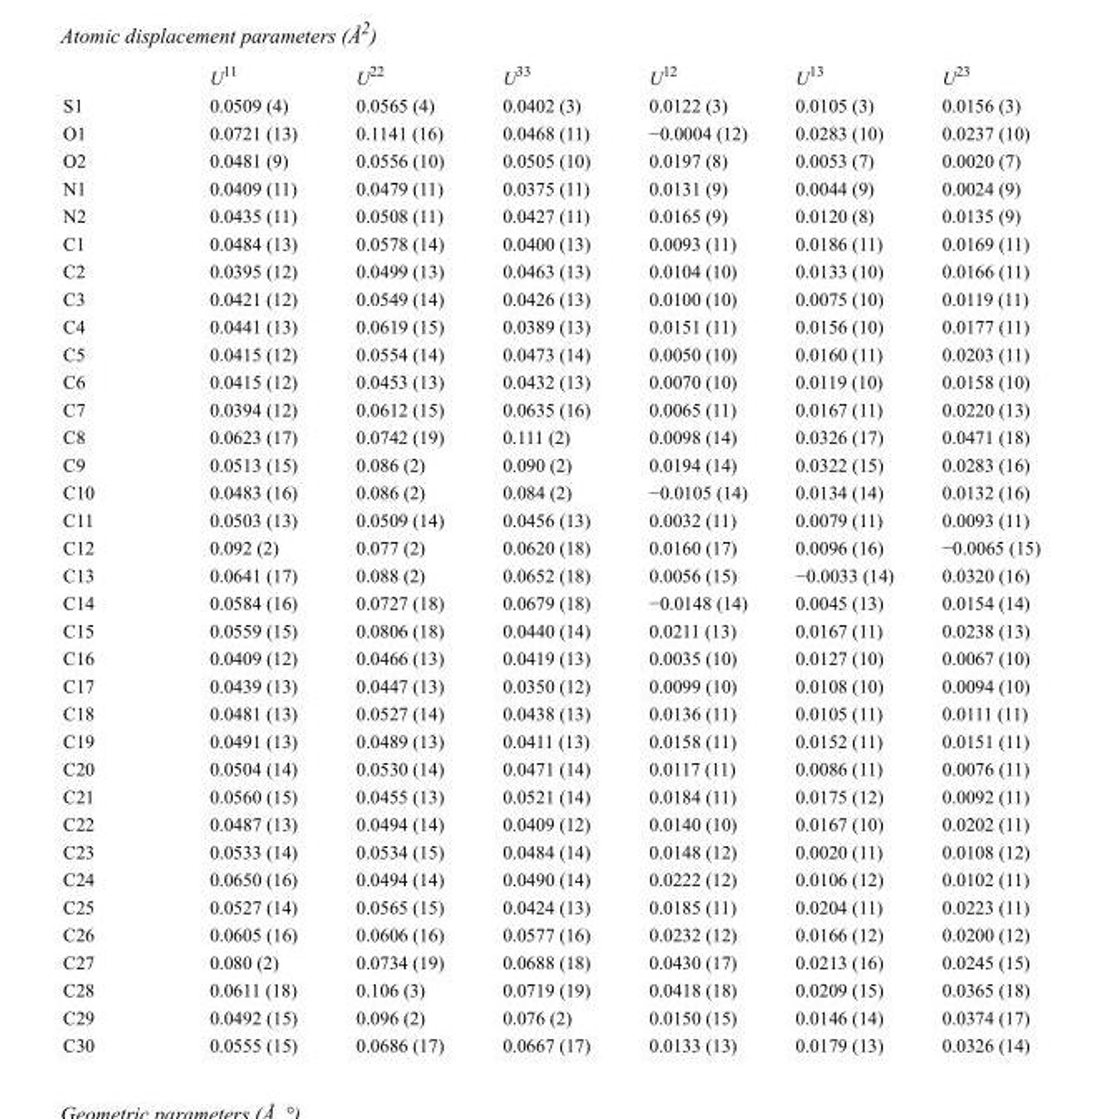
<table><thead><tr><td></td><td>U<sup>11</sup></td><td>U<sup>22</sup></td><td>U<sup>33</sup></td><td>U<sup>12</sup></td><td>U<sup>13</sup></td><td>U<sup>23</sup></td></tr></thead><tbody><tr><td>S1</td><td>0.0509 (4)</td><td>0.0565 (4)</td><td>0.0402 (3)</td><td>0.0122 (3)</td><td>0.0105 (3)</td><td>0.0156 (3)</td></tr><tr><td>O1</td><td>0.0721 (13)</td><td>0.1141 (16)</td><td>0.0468 (11)</td><td>−0.0004 (12)</td><td>0.0283 (10)</td><td>0.0237 (10)</td></tr><tr><td>O2</td><td>0.0481 (9)</td><td>0.0556 (10)</td><td>0.0505 (10)</td><td>0.0197 (8)</td><td>0.0053 (7)</td><td>0.0020 (7)</td></tr><tr><td>N1</td><td>0.0409 (11)</td><td>0.0479 (11)</td><td>0.0375 (11)</td><td>0.0131 (9)</td><td>0.0044 (9)</td><td>0.0024 (9)</td></tr><tr><td>N2</td><td>0.0435 (11)</td><td>0.0508 (11)</td><td>0.0427 (11)</td><td>0.0165 (9)</td><td>0.0120 (8)</td><td>0.0135 (9)</td></tr><tr><td>C1</td><td>0.0484 (13)</td><td>0.0578 (14)</td><td>0.0400 (13)</td><td>0.0093 (11)</td><td>0.0186 (11)</td><td>0.0169 (11)</td></tr><tr><td>C2</td><td>0.0395 (12)</td><td>0.0499 (13)</td><td>0.0463 (13)</td><td>0.0104 (10)</td><td>0.0133 (10)</td><td>0.0166 (11)</td></tr><tr><td>C3</td><td>0.0421 (12)</td><td>0.0549 (14)</td><td>0.0426 (13)</td><td>0.0100 (10)</td><td>0.0075 (10)</td><td>0.0119 (11)</td></tr><tr><td>C4</td><td>0.0441 (13)</td><td>0.0619 (15)</td><td>0.0389 (13)</td><td>0.0151 (11)</td><td>0.0156 (10)</td><td>0.0177 (11)</td></tr><tr><td>C5</td><td>0.0415 (12)</td><td>0.0554 (14)</td><td>0.0473 (14)</td><td>0.0050 (10)</td><td>0.0160 (11)</td><td>0.0203 (11)</td></tr><tr><td>C6</td><td>0.0415 (12)</td><td>0.0453 (13)</td><td>0.0432 (13)</td><td>0.0070 (10)</td><td>0.0119 (10)</td><td>0.0158 (10)</td></tr><tr><td>C7</td><td>0.0394 (12)</td><td>0.0612 (15)</td><td>0.0635 (16)</td><td>0.0065 (11)</td><td>0.0167 (11)</td><td>0.0220 (13)</td></tr><tr><td>C8</td><td>0.0623 (17)</td><td>0.0742 (19)</td><td>0.111 (2)</td><td>0.0098 (14)</td><td>0.0326 (17)</td><td>0.0471 (18)</td></tr><tr><td>C9</td><td>0.0513 (15)</td><td>0.086 (2)</td><td>0.090 (2)</td><td>0.0194 (14)</td><td>0.0322 (15)</td><td>0.0283 (16)</td></tr><tr><td>C10</td><td>0.0483 (16)</td><td>0.086 (2)</td><td>0.084 (2)</td><td>−0.0105 (14)</td><td>0.0134 (14)</td><td>0.0132 (16)</td></tr><tr><td>C11</td><td>0.0503 (13)</td><td>0.0509 (14)</td><td>0.0456 (13)</td><td>0.0032 (11)</td><td>0.0079 (11)</td><td>0.0093 (11)</td></tr><tr><td>C12</td><td>0.092 (2)</td><td>0.077 (2)</td><td>0.0620 (18)</td><td>0.0160 (17)</td><td>0.0096 (16)</td><td>−0.0065 (15)</td></tr><tr><td>C13</td><td>0.0641 (17)</td><td>0.088 (2)</td><td>0.0652 (18)</td><td>0.0056 (15)</td><td>−0.0033 (14)</td><td>0.0320 (16)</td></tr><tr><td>C14</td><td>0.0584 (16)</td><td>0.0727 (18)</td><td>0.0679 (18)</td><td>−0.0148 (14)</td><td>0.0045 (13)</td><td>0.0154 (14)</td></tr><tr><td>C15</td><td>0.0559 (15)</td><td>0.0806 (18)</td><td>0.0440 (14)</td><td>0.0211 (13)</td><td>0.0167 (11)</td><td>0.0238 (13)</td></tr><tr><td>C16</td><td>0.0409 (12)</td><td>0.0466 (13)</td><td>0.0419 (13)</td><td>0.0035 (10)</td><td>0.0127 (10)</td><td>0.0067 (10)</td></tr><tr><td>C17</td><td>0.0439 (13)</td><td>0.0447 (13)</td><td>0.0350 (12)</td><td>0.0099 (10)</td><td>0.0108 (10)</td><td>0.0094 (10)</td></tr><tr><td>C18</td><td>0.0481 (13)</td><td>0.0527 (14)</td><td>0.0438 (13)</td><td>0.0136 (11)</td><td>0.0105 (11)</td><td>0.0111 (11)</td></tr><tr><td>C19</td><td>0.0491 (13)</td><td>0.0489 (13)</td><td>0.0411 (13)</td><td>0.0158 (11)</td><td>0.0152 (11)</td><td>0.0151 (11)</td></tr><tr><td>C20</td><td>0.0504 (14)</td><td>0.0530 (14)</td><td>0.0471 (14)</td><td>0.0117 (11)</td><td>0.0086 (11)</td><td>0.0076 (11)</td></tr><tr><td>C21</td><td>0.0560 (15)</td><td>0.0455 (13)</td><td>0.0521 (14)</td><td>0.0184 (11)</td><td>0.0175 (12)</td><td>0.0092 (11)</td></tr><tr><td>C22</td><td>0.0487 (13)</td><td>0.0494 (14)</td><td>0.0409 (12)</td><td>0.0140 (10)</td><td>0.0167 (10)</td><td>0.0202 (11)</td></tr><tr><td>C23</td><td>0.0533 (14)</td><td>0.0534 (15)</td><td>0.0484 (14)</td><td>0.0148 (12)</td><td>0.0020 (11)</td><td>0.0108 (12)</td></tr><tr><td>C24</td><td>0.0650 (16)</td><td>0.0494 (14)</td><td>0.0490 (14)</td><td>0.0222 (12)</td><td>0.0106 (12)</td><td>0.0102 (11)</td></tr><tr><td>C25</td><td>0.0527 (14)</td><td>0.0565 (15)</td><td>0.0424 (13)</td><td>0.0185 (11)</td><td>0.0204 (11)</td><td>0.0223 (11)</td></tr><tr><td>C26</td><td>0.0605 (16)</td><td>0.0606 (16)</td><td>0.0577 (16)</td><td>0.0232 (12)</td><td>0.0166 (12)</td><td>0.0200 (12)</td></tr><tr><td>C27</td><td>0.080 (2)</td><td>0.0734 (19)</td><td>0.0688 (18)</td><td>0.0430 (17)</td><td>0.0213 (16)</td><td>0.0245 (15)</td></tr><tr><td>C28</td><td>0.0611 (18)</td><td>0.106 (3)</td><td>0.0719 (19)</td><td>0.0418 (18)</td><td>0.0209 (15)</td><td>0.0365 (18)</td></tr><tr><td>C29</td><td>0.0492 (15)</td><td>0.096 (2)</td><td>0.076 (2)</td><td>0.0150 (15)</td><td>0.0146 (14)</td><td>0.0374 (17)</td></tr><tr><td>C30</td><td>0.0555 (15)</td><td>0.0686 (17)</td><td>0.0667 (17)</td><td>0.0133 (13)</td><td>0.0179 (13)</td><td>0.0326 (14)</td></tr></tbody></table>